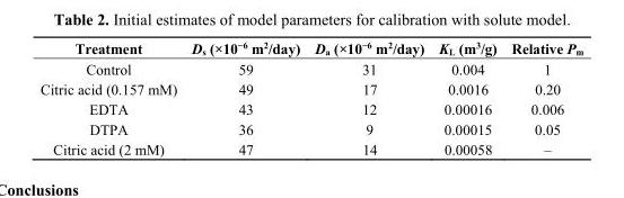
<table><thead><tr><td>Treatment</td><td>D<sub>s</sub> (×10<sup>−6</sup> m<sup>2</sup>/day)</td><td>D<sub>a</sub> (×10<sup>−6</sup> m<sup>2</sup>/day)</td><td>K<sub>L</sub> (m<sup>3</sup>/g)</td><td>Relative P<sub>m</sub></td></tr></thead><tbody><tr><td>Control</td><td>59</td><td>31</td><td>0.004</td><td>1</td></tr><tr><td>Citric acid (0.157 mM)</td><td>49</td><td>17</td><td>0.0016</td><td>0.20</td></tr><tr><td>EDTA</td><td>43</td><td>12</td><td>0.00016</td><td>0.006</td></tr><tr><td>DTPA</td><td>36</td><td>9</td><td>0.00015</td><td>0.05</td></tr><tr><td>Citric acid (2 mM)</td><td>47</td><td>14</td><td>0.00058</td><td>–</td></tr></tbody></table>